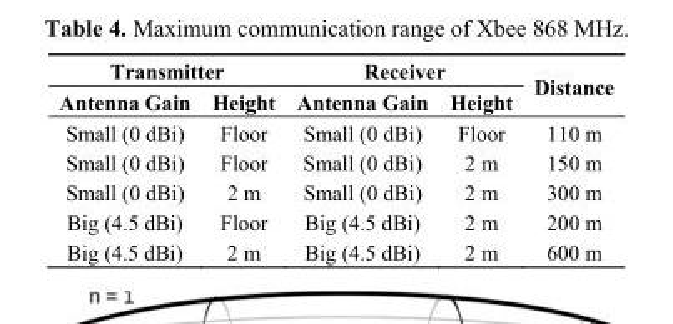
<table><thead><tr><td colspan="2">Transmitter</td><td colspan="2">Receiver</td><td rowspan="2">Distance</td></tr><tr><td>Antenna Gain</td><td>Height</td><td>Antenna Gain</td><td>Height</td></tr></thead><tbody><tr><td>Small (0 dBi)</td><td>Floor</td><td>Small (0 dBi)</td><td>Floor</td><td>110 m</td></tr><tr><td>Small (0 dBi)</td><td>Floor</td><td>Small (0 dBi)</td><td>2 m</td><td>150 m</td></tr><tr><td>Small (0 dBi)</td><td>2 m</td><td>Small (0 dBi)</td><td>2 m</td><td>300 m</td></tr><tr><td>Big (4.5 dBi)</td><td>Floor</td><td>Big (4.5 dBi)</td><td>2 m</td><td>200 m</td></tr><tr><td>Big (4.5 dBi)</td><td>2 m</td><td>Big (4.5 dBi)</td><td>2 m</td><td>600 m</td></tr></tbody></table>